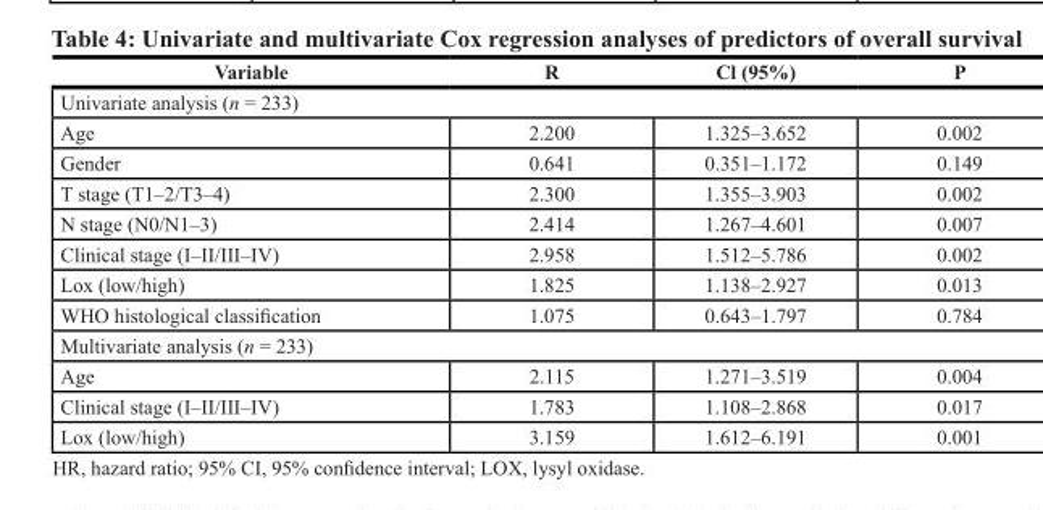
<table><thead><tr><td>Variable</td><td>R</td><td>Cl (95%)</td><td>P</td></tr></thead><tbody><tr><td colspan="4">Univariate analysis (n = 233)</td></tr><tr><td>Age</td><td>2.200</td><td>1.325–3.652</td><td>0.002</td></tr><tr><td>Gender</td><td>0.641</td><td>0.351–1.172</td><td>0.149</td></tr><tr><td>T stage (T1–2/T3–4)</td><td>2.300</td><td>1.355–3.903</td><td>0.002</td></tr><tr><td>N stage (N0/N1–3)</td><td>2.414</td><td>1.267–4.601</td><td>0.007</td></tr><tr><td>Clinical stage (I–II/III–IV)</td><td>2.958</td><td>1.512–5.786</td><td>0.002</td></tr><tr><td>Lox (low/high)</td><td>1.825</td><td>1.138–2.927</td><td>0.013</td></tr><tr><td>WHO histological classification</td><td>1.075</td><td>0.643–1.797</td><td>0.784</td></tr><tr><td colspan="4">Multivariate analysis (n = 233)</td></tr><tr><td>Age</td><td>2.115</td><td>1.271–3.519</td><td>0.004</td></tr><tr><td>Clinical stage (I–II/III–IV)</td><td>1.783</td><td>1.108–2.868</td><td>0.017</td></tr><tr><td>Lox (low/high)</td><td>3.159</td><td>1.612–6.191</td><td>0.001</td></tr></tbody></table>